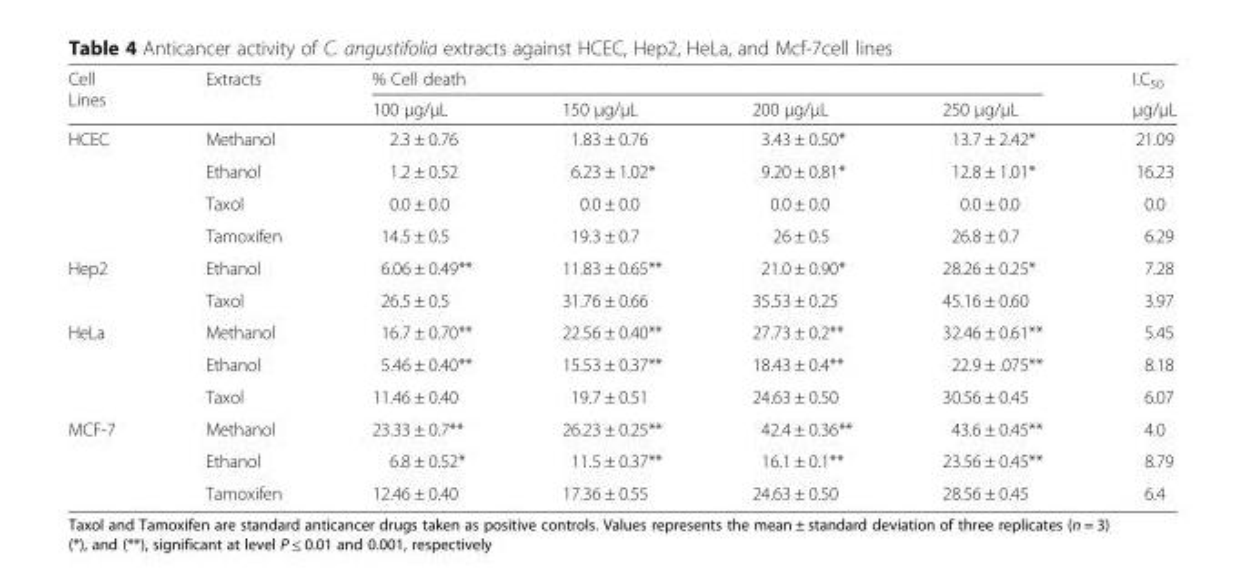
<table><thead><tr><td rowspan="2">Cell Lines</td><td rowspan="2">Extracts</td><td colspan="4">% Cell death</td><td rowspan="2">I.C<sub>50</sub> μg/μL</td></tr><tr><td>100 μg/μL</td><td>150 μg/μL</td><td>200 μg/μL</td><td>250 μg/μL</td></tr></thead><tbody><tr><td rowspan="4">HCEC</td><td>Methanol</td><td>2.3 ± 0.76</td><td>1.83 ± 0.76</td><td>3.43 ± 0.50*</td><td>13.7 ± 2.42*</td><td>21.09</td></tr><tr><td>Ethanol</td><td>1.2 ± 0.52</td><td>6.23 ± 1.02*</td><td>9.20 ± 0.81*</td><td>12.8 ± 1.01*</td><td>16.23</td></tr><tr><td>Taxol</td><td>0.0 ± 0.0</td><td>0.0 ± 0.0</td><td>0.0 ± 0.0</td><td>0.0 ± 0.0</td><td>0.0</td></tr><tr><td>Tamoxifen</td><td>14.5 ± 0.5</td><td>19.3 ± 0.7</td><td>26 ± 0.5</td><td>26.8 ± 0.7</td><td>6.29</td></tr><tr><td rowspan="2">Hep2</td><td>Ethanol</td><td>6.06 ± 0.49**</td><td>11.83 ± 0.65**</td><td>21.0 ± 0.90*</td><td>28.26 ± 0.25*</td><td>7.28</td></tr><tr><td>Taxol</td><td>26.5 ± 0.5</td><td>31.76 ± 0.66</td><td>35.53 ± 0.25</td><td>45.16 ± 0.60</td><td>3.97</td></tr><tr><td rowspan="3">HeLa</td><td>Methanol</td><td>16.7 ± 0.70**</td><td>22.56 ± 0.40**</td><td>27.73 ± 0.2**</td><td>32.46 ± 0.61**</td><td>5.45</td></tr><tr><td>Ethanol</td><td>5.46 ± 0.40**</td><td>15.53 ± 0.37**</td><td>18.43 ± 0.4**</td><td>22.9 ± .075**</td><td>8.18</td></tr><tr><td>Taxol</td><td>11.46 ± 0.40</td><td>19.7 ± 0.51</td><td>24.63 ± 0.50</td><td>30.56 ± 0.45</td><td>6.07</td></tr><tr><td rowspan="3">MCF-7</td><td>Methanol</td><td>23.33 ± 0.7**</td><td>26.23 ± 0.25**</td><td>42.4 ± 0.36**</td><td>43.6 ± 0.45**</td><td>4.0</td></tr><tr><td>Ethanol</td><td>6.8 ± 0.52*</td><td>11.5 ± 0.37**</td><td>16.1 ± 0.1**</td><td>23.56 ± 0.45**</td><td>8.79</td></tr><tr><td>Tamoxifen</td><td>12.46 ± 0.40</td><td>17.36 ± 0.55</td><td>24.63 ± 0.50</td><td>28.56 ± 0.45</td><td>6.4</td></tr></tbody></table>